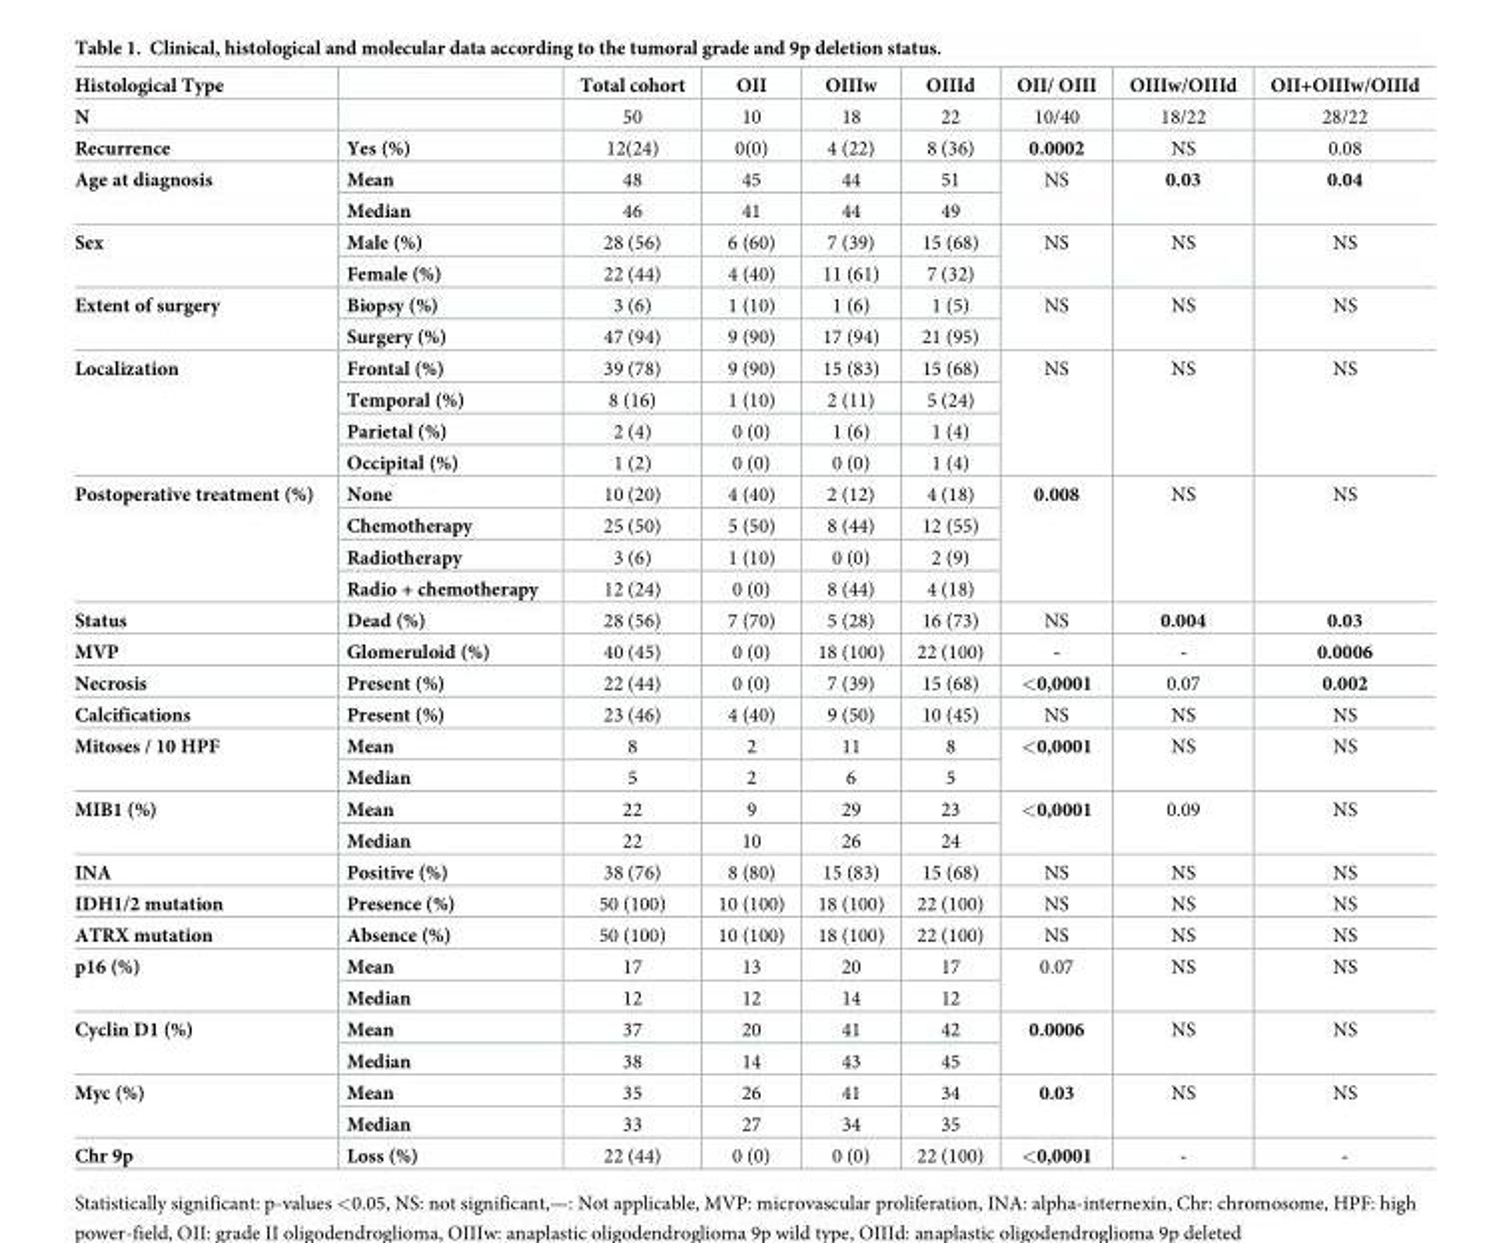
<table><thead><tr><td>Histological Type</td><td></td><td>Total cohort</td><td>OII</td><td>OIIIw</td><td>OIIId</td><td>OII/ OIII</td><td>OIIIw/OIIId</td><td>OII+OIIIw/OIIId</td></tr></thead><tbody><tr><td>N</td><td></td><td>50</td><td>10</td><td>18</td><td>22</td><td>10/40</td><td>18/22</td><td>28/22</td></tr><tr><td>Recurrence</td><td>Yes (%)</td><td>12(24)</td><td>0(0)</td><td>4 (22)</td><td>8 (36)</td><td>0.0002</td><td>NS</td><td>0.08</td></tr><tr><td rowspan="2">Age at diagnosis</td><td>Mean</td><td>48</td><td>45</td><td>44</td><td>51</td><td rowspan="2">NS</td><td rowspan="2">0.03</td><td rowspan="2">0.04</td></tr><tr><td>Median</td><td>46</td><td>41</td><td>44</td><td>49</td></tr><tr><td rowspan="2">Sex</td><td>Male (%)</td><td>28 (56)</td><td>6 (60)</td><td>7 (39)</td><td>15 (68)</td><td rowspan="2">NS</td><td rowspan="2">NS</td><td rowspan="2">NS</td></tr><tr><td>Female (%)</td><td>22 (44)</td><td>4 (40)</td><td>11 (61)</td><td>7 (32)</td></tr><tr><td rowspan="2">Extent of surgery</td><td>Biopsy (%)</td><td>3 (6)</td><td>1 (10)</td><td>1 (6)</td><td>1 (5)</td><td rowspan="2">NS</td><td rowspan="2">NS</td><td rowspan="2">NS</td></tr><tr><td>Surgery (%)</td><td>47 (94)</td><td>9 (90)</td><td>17 (94)</td><td>21 (95)</td></tr><tr><td rowspan="4">Localization</td><td>Frontal (%)</td><td>39 (78)</td><td>9 (90)</td><td>15 (83)</td><td>15 (68)</td><td rowspan="4">NS</td><td rowspan="4">NS</td><td rowspan="4">NS</td></tr><tr><td>Temporal (%)</td><td>8 (16)</td><td>1 (10)</td><td>2 (11)</td><td>5 (24)</td></tr><tr><td>Parietal (%)</td><td>2 (4)</td><td>0 (0)</td><td>1 (6)</td><td>1 (4)</td></tr><tr><td>Occipital (%)</td><td>1 (2)</td><td>0 (0)</td><td>0 (0)</td><td>1 (4)</td></tr><tr><td rowspan="4">Postoperative treatment (%)</td><td>None</td><td>10 (20)</td><td>4 (40)</td><td>2 (12)</td><td>4 (18)</td><td rowspan="4">0.008</td><td rowspan="4">NS</td><td rowspan="4">NS</td></tr><tr><td>Chemotherapy</td><td>25 (50)</td><td>5 (50)</td><td>8 (44)</td><td>12 (55)</td></tr><tr><td>Radiotherapy</td><td>3 (6)</td><td>1 (10)</td><td>0 (0)</td><td>2 (9)</td></tr><tr><td>Radio + chemotherapy</td><td>12 (24)</td><td>0 (0)</td><td>8 (44)</td><td>4 (18)</td></tr><tr><td>Status</td><td>Dead (%)</td><td>28 (56)</td><td>7 (70)</td><td>5 (28)</td><td>16 (73)</td><td>NS</td><td>0.004</td><td>0.03</td></tr><tr><td>MVP</td><td>Glomeruloid (%)</td><td>40 (45)</td><td>0 (0)</td><td>18 (100)</td><td>22 (100)</td><td>-</td><td>-</td><td>0.0006</td></tr><tr><td>Necrosis</td><td>Present (%)</td><td>22 (44)</td><td>0 (0)</td><td>7 (39)</td><td>15 (68)</td><td>&lt;0,0001</td><td>0.07</td><td>0.002</td></tr><tr><td>Calcifications</td><td>Present (%)</td><td>23 (46)</td><td>4 (40)</td><td>9 (50)</td><td>10 (45)</td><td>NS</td><td>NS</td><td>NS</td></tr><tr><td rowspan="2">Mitoses / 10 HPF</td><td>Mean</td><td>8</td><td>2</td><td>11</td><td>8</td><td rowspan="2">&lt;0,0001</td><td rowspan="2">NS</td><td rowspan="2">NS</td></tr><tr><td>Median</td><td>5</td><td>2</td><td>6</td><td>5</td></tr><tr><td rowspan="2">MIB1 (%)</td><td>Mean</td><td>22</td><td>9</td><td>29</td><td>23</td><td rowspan="2">&lt;0,0001</td><td rowspan="2">0.09</td><td rowspan="2">NS</td></tr><tr><td>Median</td><td>22</td><td>10</td><td>26</td><td>24</td></tr><tr><td>INA</td><td>Positive (%)</td><td>38 (76)</td><td>8 (80)</td><td>15 (83)</td><td>15 (68)</td><td>NS</td><td>NS</td><td>NS</td></tr><tr><td>IDH1/2 mutation</td><td>Presence (%)</td><td>50 (100)</td><td>10 (100)</td><td>18 (100)</td><td>22 (100)</td><td>NS</td><td>NS</td><td>NS</td></tr><tr><td>ATRX mutation</td><td>Absence (%)</td><td>50 (100)</td><td>10 (100)</td><td>18 (100)</td><td>22 (100)</td><td>NS</td><td>NS</td><td>NS</td></tr><tr><td rowspan="2">p16 (%)</td><td>Mean</td><td>17</td><td>13</td><td>20</td><td>17</td><td rowspan="2">0.07</td><td rowspan="2">NS</td><td rowspan="2">NS</td></tr><tr><td>Median</td><td>12</td><td>12</td><td>14</td><td>12</td></tr><tr><td rowspan="2">Cyclin D1 (%)</td><td>Mean</td><td>37</td><td>20</td><td>41</td><td>42</td><td rowspan="2">0.0006</td><td rowspan="2">NS</td><td rowspan="2">NS</td></tr><tr><td>Median</td><td>38</td><td>14</td><td>43</td><td>45</td></tr><tr><td rowspan="2">Myc (%)</td><td>Mean</td><td>35</td><td>26</td><td>41</td><td>34</td><td rowspan="2">0.03</td><td rowspan="2">NS</td><td rowspan="2">NS</td></tr><tr><td>Median</td><td>33</td><td>27</td><td>34</td><td>35</td></tr><tr><td>Chr 9p</td><td>Loss (%)</td><td>22 (44)</td><td>0 (0)</td><td>0 (0)</td><td>22 (100)</td><td>&lt;0,0001</td><td>-</td><td>-</td></tr></tbody></table>